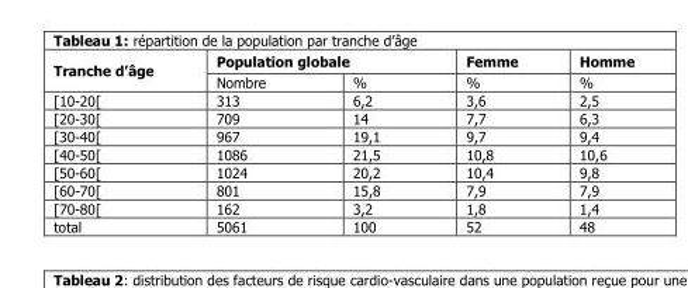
<table><thead><tr><td rowspan="2">Tranche d’âge</td><td colspan="2">Population globale</td><td rowspan="2">Femme %</td><td rowspan="2">Homme %</td></tr><tr><td>Nombre</td><td>%</td></tr></thead><tbody><tr><td>[10-20[</td><td>313</td><td>6,2</td><td>3,6</td><td>2,5</td></tr><tr><td>[20-30[</td><td>709</td><td>14</td><td>7,7</td><td>6,3</td></tr><tr><td>[30-40[</td><td>967</td><td>19,1</td><td>9,7</td><td>9,4</td></tr><tr><td>[40-50[</td><td>1086</td><td>21,5</td><td>10,8</td><td>10,6</td></tr><tr><td>[50-60[</td><td>1024</td><td>20,2</td><td>10,4</td><td>9,8</td></tr><tr><td>[60-70[</td><td>801</td><td>15,8</td><td>7,9</td><td>7,9</td></tr><tr><td>[70-80[</td><td>162</td><td>3,2</td><td>1,8</td><td>1,4</td></tr><tr><td>total</td><td>5061</td><td>100</td><td>52</td><td>48</td></tr></tbody></table>